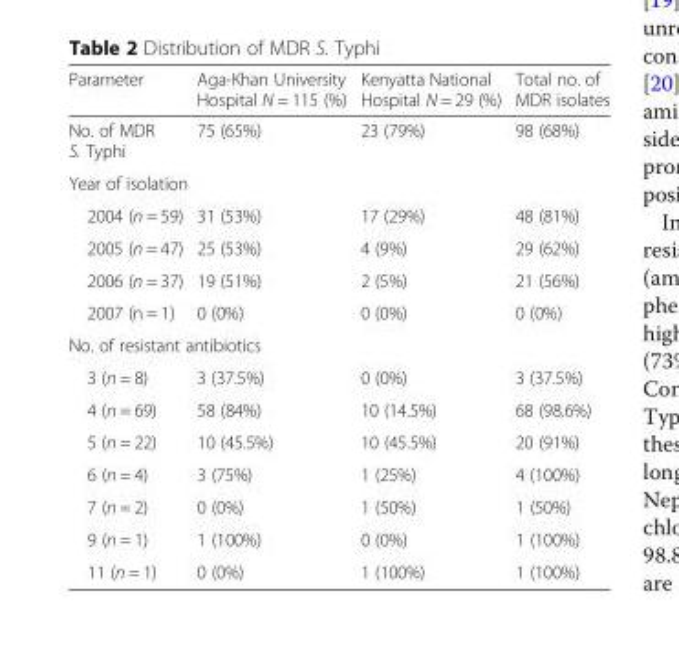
<table><thead><tr><td>Parameter</td><td>Aga-Khan University Hospital N = 115 (%)</td><td>Kenyatta National Hospital N = 29 (%)</td><td>Total no. of MDR isolates</td></tr></thead><tbody><tr><td>No. of MDR S. Typhi</td><td>75 (65%)</td><td>23 (79%)</td><td>98 (68%)</td></tr><tr><td colspan="4">Year of isolation</td></tr><tr><td>2004 (n = 59)</td><td>31 (53%)</td><td>17 (29%)</td><td>48 (81%)</td></tr><tr><td>2005 (n = 47)</td><td>25 (53%)</td><td>4 (9%)</td><td>29 (62%)</td></tr><tr><td>2006 (n = 37)</td><td>19 (51%)</td><td>2 (5%)</td><td>21 (56%)</td></tr><tr><td>2007 (n = 1)</td><td>0 (0%)</td><td>0 (0%)</td><td>0 (0%)</td></tr><tr><td colspan="4">No. of resistant antibiotics</td></tr><tr><td>3 (n = 8)</td><td>3 (37.5%)</td><td>0 (0%)</td><td>3 (37.5%)</td></tr><tr><td>4 (n = 69)</td><td>58 (84%)</td><td>10 (14.5%)</td><td>68 (98.6%)</td></tr><tr><td>5 (n = 22)</td><td>10 (45.5%)</td><td>10 (45.5%)</td><td>20 (91%)</td></tr><tr><td>6 (n = 4)</td><td>3 (75%)</td><td>1 (25%)</td><td>4 (100%)</td></tr><tr><td>7 (n = 2)</td><td>0 (0%)</td><td>1 (50%)</td><td>1 (50%)</td></tr><tr><td>9 (n = 1)</td><td>1 (100%)</td><td>0 (0%)</td><td>1 (100%)</td></tr><tr><td>11 (n = 1)</td><td>0 (0%)</td><td>1 (100%)</td><td>1 (100%)</td></tr></tbody></table>